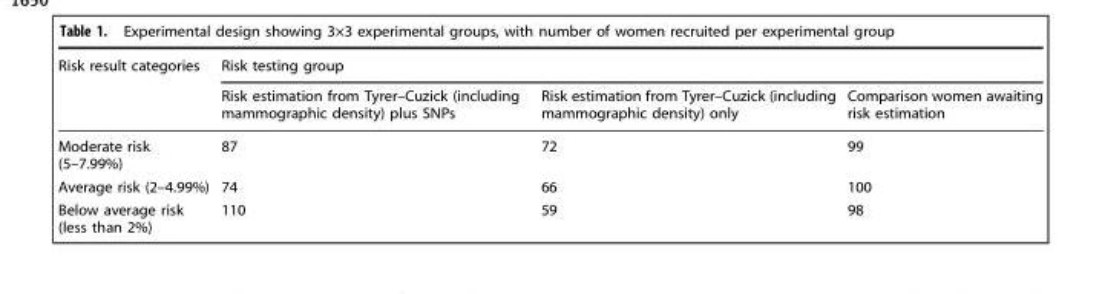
<table><thead><tr><td rowspan="2">Risk result categories</td><td colspan="3">Risk testing group</td></tr><tr><td>Risk estimation from Tyrer–Cuzick (including mammographic density) plus SNPs</td><td>Risk estimation from Tyrer–Cuzick (including mammographic density) only</td><td>Comparison women awaiting risk estimation</td></tr></thead><tbody><tr><td>Moderate risk (5–7.99%)</td><td>87</td><td>72</td><td>99</td></tr><tr><td>Average risk (2–4.99%)</td><td>74</td><td>66</td><td>100</td></tr><tr><td>Below average risk (less than 2%)</td><td>110</td><td>59</td><td>98</td></tr></tbody></table>